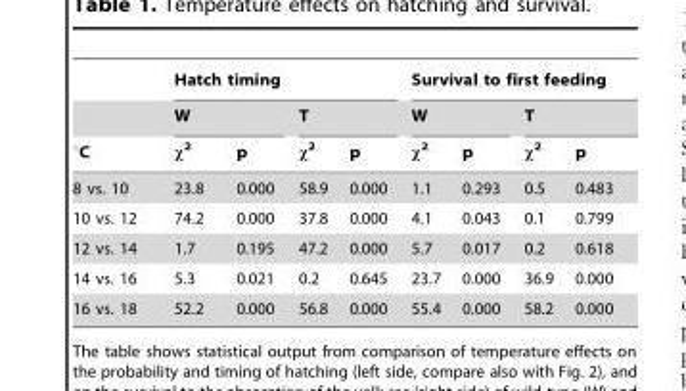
<table><thead><tr><td rowspan="3">°C</td><td colspan="4">Hatch timing</td><td colspan="4">Survival to first feeding</td></tr><tr><td colspan="2">W</td><td colspan="2">T</td><td colspan="2">W</td><td colspan="2">T</td></tr><tr><td>χ<sup>2</sup></td><td>p</td><td>χ<sup>2</sup></td><td>p</td><td>χ<sup>2</sup></td><td>p</td><td>χ<sup>2</sup></td><td>p</td></tr></thead><tbody><tr><td>8 vs. 10</td><td>23.8</td><td>0.000</td><td>58.9</td><td>0.000</td><td>1.1</td><td>0.293</td><td>0.5</td><td>0.483</td></tr><tr><td>10 vs. 12</td><td>74.2</td><td>0.000</td><td>37.8</td><td>0.000</td><td>4.1</td><td>0.043</td><td>0.1</td><td>0.799</td></tr><tr><td>12 vs. 14</td><td>1.7</td><td>0.195</td><td>47.2</td><td>0.000</td><td>5.7</td><td>0.017</td><td>0.2</td><td>0.618</td></tr><tr><td>14 vs. 16</td><td>5.3</td><td>0.021</td><td>0.2</td><td>0.645</td><td>23.7</td><td>0.000</td><td>36.9</td><td>0.000</td></tr><tr><td>16 vs. 18</td><td>52.2</td><td>0.000</td><td>56.8</td><td>0.000</td><td>55.4</td><td>0.000</td><td>58.2</td><td>0.000</td></tr></tbody></table>